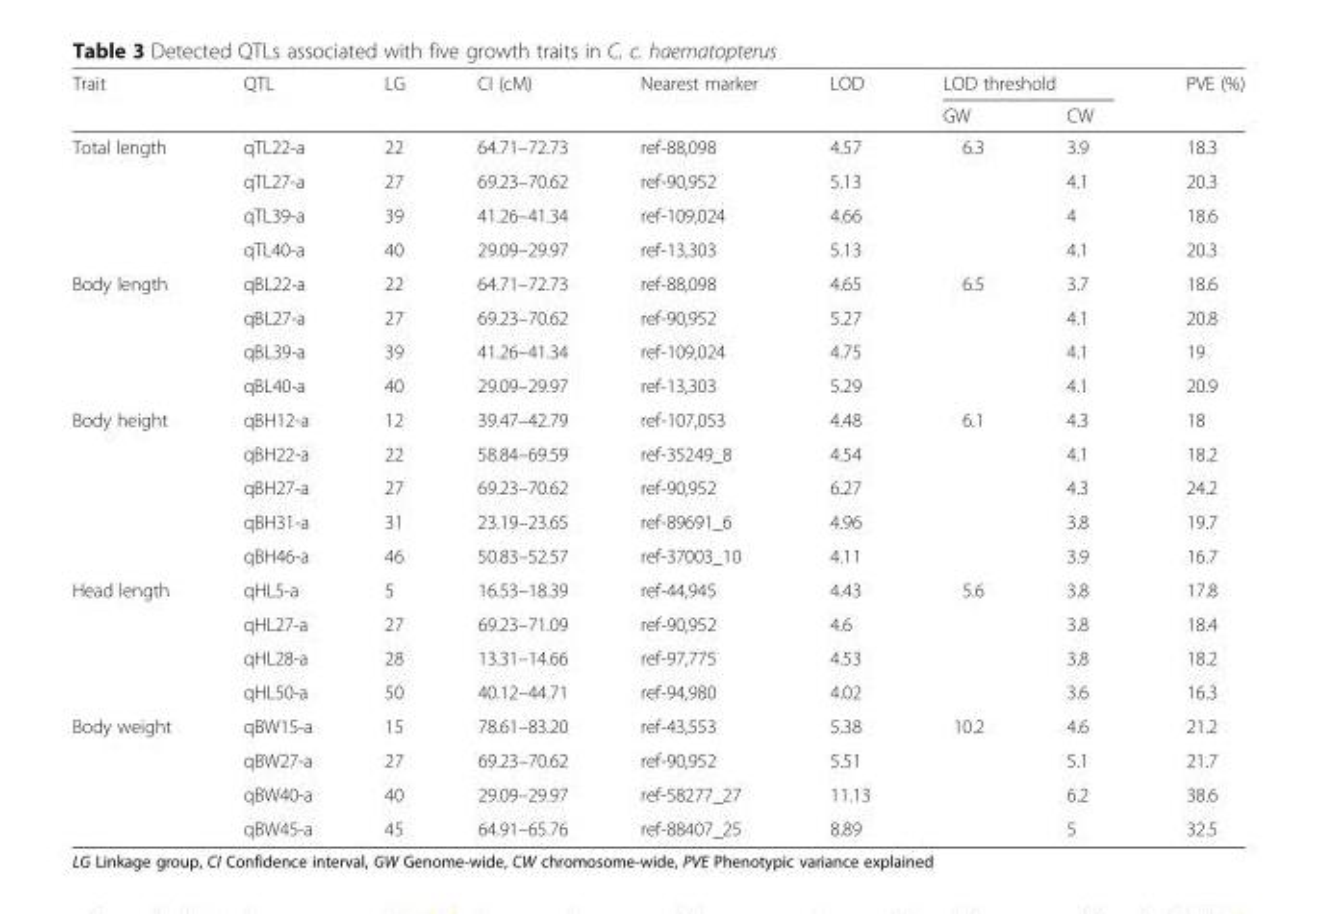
<table><thead><tr><td rowspan="2">Trait</td><td rowspan="2">QTL</td><td rowspan="2">LG</td><td rowspan="2">CI (cM)</td><td rowspan="2">Nearest marker</td><td rowspan="2">LOD</td><td colspan="2">LOD threshold</td><td rowspan="2">PVE (%)</td></tr><tr><td>GW</td><td>CW</td></tr></thead><tbody><tr><td rowspan="4">Total length</td><td>qTL22-a</td><td>22</td><td>64.71–72.73</td><td>ref-88,098</td><td>4.57</td><td>6.3</td><td>3.9</td><td>18.3</td></tr><tr><td>qTL27-a</td><td>27</td><td>69.23–70.62</td><td>ref-90,952</td><td>5.13</td><td></td><td>4.1</td><td>20.3</td></tr><tr><td>qTL39-a</td><td>39</td><td>41.26–41.34</td><td>ref-109,024</td><td>4.66</td><td></td><td>4</td><td>18.6</td></tr><tr><td>qTL40-a</td><td>40</td><td>29.09–29.97</td><td>ref-13,303</td><td>5.13</td><td></td><td>4.1</td><td>20.3</td></tr><tr><td rowspan="4">Body length</td><td>qBL22-a</td><td>22</td><td>64.71–72.73</td><td>ref-88,098</td><td>4.65</td><td>6.5</td><td>3.7</td><td>18.6</td></tr><tr><td>qBL27-a</td><td>27</td><td>69.23–70.62</td><td>ref-90,952</td><td>5.27</td><td></td><td>4.1</td><td>20.8</td></tr><tr><td>qBL39-a</td><td>39</td><td>41.26–41.34</td><td>ref-109,024</td><td>4.75</td><td></td><td>4.1</td><td>19</td></tr><tr><td>qBL40-a</td><td>40</td><td>29.09–29.97</td><td>ref-13,303</td><td>5.29</td><td></td><td>4.1</td><td>20.9</td></tr><tr><td rowspan="5">Body height</td><td>qBH12-a</td><td>12</td><td>39.47–42.79</td><td>ref-107,053</td><td>4.48</td><td>6.1</td><td>4.3</td><td>18</td></tr><tr><td>qBH22-a</td><td>22</td><td>58.84–69.59</td><td>ref-35249_8</td><td>4.54</td><td></td><td>4.1</td><td>18.2</td></tr><tr><td>qBH27-a</td><td>27</td><td>69.23–70.62</td><td>ref-90,952</td><td>6.27</td><td></td><td>4.3</td><td>24.2</td></tr><tr><td>qBH31-a</td><td>31</td><td>23.19–23.65</td><td>ref-89691_6</td><td>4.96</td><td></td><td>3.8</td><td>19.7</td></tr><tr><td>qBH46-a</td><td>46</td><td>50.83–52.57</td><td>ref-37003_10</td><td>4.11</td><td></td><td>3.9</td><td>16.7</td></tr><tr><td rowspan="4">Head length</td><td>qHL5-a</td><td>5</td><td>16.53–18.39</td><td>ref-44,945</td><td>4.43</td><td>5.6</td><td>3.8</td><td>17.8</td></tr><tr><td>qHL27-a</td><td>27</td><td>69.23–71.09</td><td>ref-90,952</td><td>4.6</td><td></td><td>3.8</td><td>18.4</td></tr><tr><td>qHL28-a</td><td>28</td><td>13.31–14.66</td><td>ref-97,775</td><td>4.53</td><td></td><td>3.8</td><td>18.2</td></tr><tr><td>qHL50-a</td><td>50</td><td>40.12–44.71</td><td>ref-94,980</td><td>4.02</td><td></td><td>3.6</td><td>16.3</td></tr><tr><td rowspan="4">Body weight</td><td>qBW15-a</td><td>15</td><td>78.61–83.20</td><td>ref-43,553</td><td>5.38</td><td>10.2</td><td>4.6</td><td>21.2</td></tr><tr><td>qBW27-a</td><td>27</td><td>69.23–70.62</td><td>ref-90,952</td><td>5.51</td><td></td><td>5.1</td><td>21.7</td></tr><tr><td>qBW40-a</td><td>40</td><td>29.09–29.97</td><td>ref-58277_27</td><td>11.13</td><td></td><td>6.2</td><td>38.6</td></tr><tr><td>qBW45-a</td><td>45</td><td>64.91–65.76</td><td>ref-88407_25</td><td>8.89</td><td></td><td>5</td><td>32.5</td></tr></tbody></table>